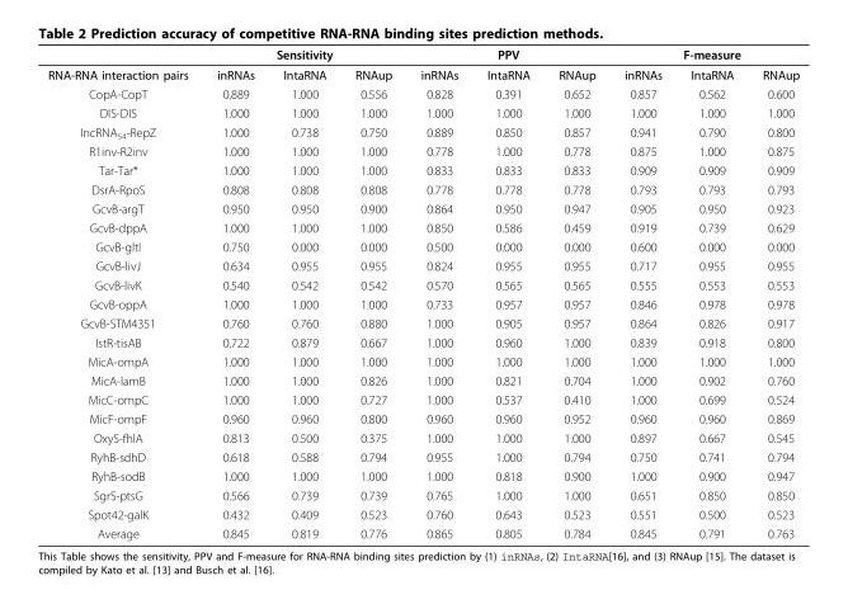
<table><thead><tr><td rowspan="2">RNA-RNA interaction pairs</td><td colspan="3">Sensitivity</td><td colspan="3">PPV</td><td colspan="3">F-measure</td></tr><tr><td>inRNAs</td><td>IntaRNA</td><td>RNAup</td><td>inRNAs</td><td>IntaRNA</td><td>RNAup</td><td>inRNAs</td><td>IntaRNA</td><td>RNAup</td></tr></thead><tbody><tr><td>CopA-CopT</td><td>0.889</td><td>1.000</td><td>0.556</td><td>0.828</td><td>0.391</td><td>0.652</td><td>0.857</td><td>0.562</td><td>0.600</td></tr><tr><td>DIS-DIS</td><td>1.000</td><td>1.000</td><td>1.000</td><td>1.000</td><td>1.000</td><td>1.000</td><td>1.000</td><td>1.000</td><td>1.000</td></tr><tr><td>IncRNA<sub>54</sub>-RepZ</td><td>1.000</td><td>0.738</td><td>0.750</td><td>0.889</td><td>0.850</td><td>0.857</td><td>0.941</td><td>0.790</td><td>0.800</td></tr><tr><td>R1inv-R2inv</td><td>1.000</td><td>1.000</td><td>1.000</td><td>0.778</td><td>1.000</td><td>0.778</td><td>0.875</td><td>1.000</td><td>0.875</td></tr><tr><td>Tar-Tar*</td><td>1.000</td><td>1.000</td><td>1.000</td><td>0.833</td><td>0.833</td><td>0.833</td><td>0.909</td><td>0.909</td><td>0.909</td></tr><tr><td>DsrA-RpoS</td><td>0.808</td><td>0.808</td><td>0.808</td><td>0.778</td><td>0.778</td><td>0.778</td><td>0.793</td><td>0.793</td><td>0.793</td></tr><tr><td>GcvB-argT</td><td>0.950</td><td>0.950</td><td>0.900</td><td>0.864</td><td>0.950</td><td>0.947</td><td>0.905</td><td>0.950</td><td>0.923</td></tr><tr><td>GcvB-dppA</td><td>1.000</td><td>1.000</td><td>1.000</td><td>0.850</td><td>0.586</td><td>0.459</td><td>0.919</td><td>0.739</td><td>0.629</td></tr><tr><td>GcvB-gltI</td><td>0.750</td><td>0.000</td><td>0.000</td><td>0.500</td><td>0.000</td><td>0.000</td><td>0.600</td><td>0.000</td><td>0.000</td></tr><tr><td>GcvB-livJ</td><td>0.634</td><td>0.955</td><td>0.955</td><td>0.824</td><td>0.955</td><td>0.955</td><td>0.717</td><td>0.955</td><td>0.955</td></tr><tr><td>GcvB-livK</td><td>0.540</td><td>0.542</td><td>0.542</td><td>0.570</td><td>0.565</td><td>0.565</td><td>0.555</td><td>0.553</td><td>0.553</td></tr><tr><td>GcvB-oppA</td><td>1.000</td><td>1.000</td><td>1.000</td><td>0.733</td><td>0.957</td><td>0.957</td><td>0.846</td><td>0.978</td><td>0.978</td></tr><tr><td>GcvB-STM4351</td><td>0.760</td><td>0.760</td><td>0.880</td><td>1.000</td><td>0.905</td><td>0.957</td><td>0.864</td><td>0.826</td><td>0.917</td></tr><tr><td>IstR-tisAB</td><td>0.722</td><td>0.879</td><td>0.667</td><td>1.000</td><td>0.960</td><td>1.000</td><td>0.839</td><td>0.918</td><td>0.800</td></tr><tr><td>MicA-ompA</td><td>1.000</td><td>1.000</td><td>1.000</td><td>1.000</td><td>1.000</td><td>1.000</td><td>1.000</td><td>1.000</td><td>1.000</td></tr><tr><td>MicA-lamB</td><td>1.000</td><td>1.000</td><td>0.826</td><td>1.000</td><td>0.821</td><td>0.704</td><td>1.000</td><td>0.902</td><td>0.760</td></tr><tr><td>MicC-ompC</td><td>1.000</td><td>1.000</td><td>0.727</td><td>1.000</td><td>0.537</td><td>0.410</td><td>1.000</td><td>0.699</td><td>0.524</td></tr><tr><td>MicF-ompF</td><td>0.960</td><td>0.960</td><td>0.800</td><td>0.960</td><td>0.960</td><td>0.952</td><td>0.960</td><td>0.960</td><td>0.869</td></tr><tr><td>OxyS-fhlA</td><td>0.813</td><td>0.500</td><td>0.375</td><td>1.000</td><td>1.000</td><td>1.000</td><td>0.897</td><td>0.667</td><td>0.545</td></tr><tr><td>RyhB-sdhD</td><td>0.618</td><td>0.588</td><td>0.794</td><td>0.955</td><td>1.000</td><td>0.794</td><td>0.750</td><td>0.741</td><td>0.794</td></tr><tr><td>RyhB-sodB</td><td>1.000</td><td>1.000</td><td>1.000</td><td>1.000</td><td>0.818</td><td>0.900</td><td>1.000</td><td>0.900</td><td>0.947</td></tr><tr><td>SgrS-ptsG</td><td>0.566</td><td>0.739</td><td>0.739</td><td>0.765</td><td>1.000</td><td>1.000</td><td>0.651</td><td>0.850</td><td>0.850</td></tr><tr><td>Spot42-galK</td><td>0.432</td><td>0.409</td><td>0.523</td><td>0.760</td><td>0.643</td><td>0.523</td><td>0.551</td><td>0.500</td><td>0.523</td></tr><tr><td>Average</td><td>0.845</td><td>0.819</td><td>0.776</td><td>0.865</td><td>0.805</td><td>0.784</td><td>0.845</td><td>0.791</td><td>0.763</td></tr></tbody></table>